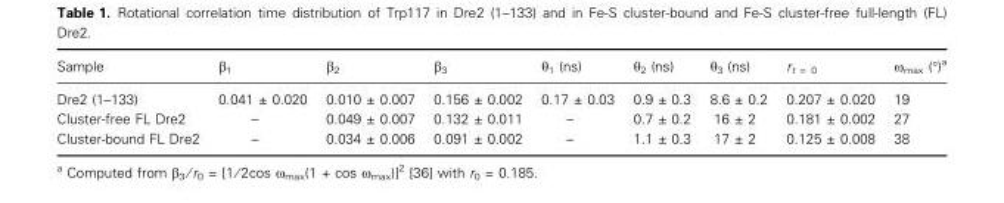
<table><thead><tr><td>Sample</td><td>β<sub>1</sub></td><td>β<sub>2</sub></td><td>β<sub>3</sub></td><td>θ<sub>1</sub> (ns)</td><td>θ<sub>2</sub> (ns)</td><td>θ<sub>3</sub> (ns)</td><td>r<sub>t = 0</sub></td><td>ω<sub>max</sub> (°)<sup>a</sup></td></tr></thead><tbody><tr><td>Dre2 (1–133)</td><td>0.041 ± 0.020</td><td>0.010 ± 0.007</td><td>0.156 ± 0.002</td><td>0.17 ± 0.03</td><td>0.9 ± 0.3</td><td>8.6 ± 0.2</td><td>0.207 ± 0.020</td><td>19</td></tr><tr><td>Cluster-free FL Dre2</td><td>–</td><td>0.049 ± 0.007</td><td>0.132 ± 0.011</td><td>–</td><td>0.7 ± 0.2</td><td>16 ± 2</td><td>0.181 ± 0.002</td><td>27</td></tr><tr><td>Cluster-bound FL Dre2</td><td>–</td><td>0.034 ± 0.006</td><td>0.091 ± 0.002</td><td>–</td><td>1.1 ± 0.3</td><td>17 ± 2</td><td>0.125 ± 0.008</td><td>38</td></tr></tbody></table>